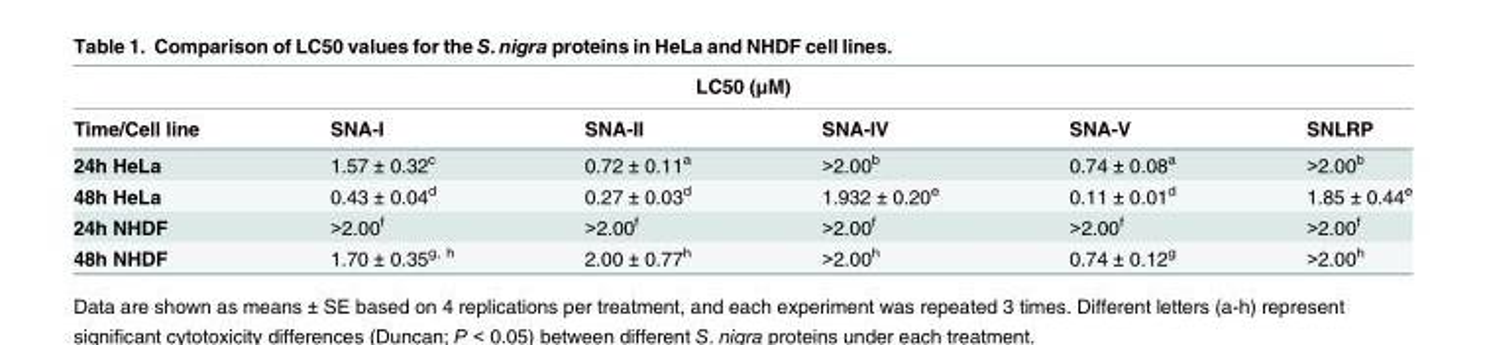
<table><thead><tr><td colspan="6">LC50 (μM)</td></tr><tr><td>Time/Cell line</td><td>SNA-I</td><td>SNA-II</td><td>SNA-IV</td><td>SNA-V</td><td>SNLRP</td></tr></thead><tbody><tr><td>24h HeLa</td><td>1.57 ± 0.32<sup>c</sup></td><td>0.72 ± 0.11<sup>a</sup></td><td>&gt;2.00<sup>b</sup></td><td>0.74 ± 0.08<sup>a</sup></td><td>&gt;2.00<sup>b</sup></td></tr><tr><td>48h HeLa</td><td>0.43 ± 0.04<sup>d</sup></td><td>0.27 ± 0.03<sup>d</sup></td><td>1.932 ± 0.20<sup>e</sup></td><td>0.11 ± 0.01<sup>d</sup></td><td>1.85 ± 0.44<sup>e</sup></td></tr><tr><td>24h NHDF</td><td>&gt;2.00<sup>f</sup></td><td>&gt;2.00<sup>f</sup></td><td>&gt;2.00<sup>f</sup></td><td>&gt;2.00<sup>f</sup></td><td>&gt;2.00<sup>f</sup></td></tr><tr><td>48h NHDF</td><td>1.70 ± 0.35<sup>g, h</sup></td><td>2.00 ± 0.77<sup>h</sup></td><td>&gt;2.00<sup>h</sup></td><td>0.74 ± 0.12<sup>g</sup></td><td>&gt;2.00<sup>h</sup></td></tr></tbody></table>